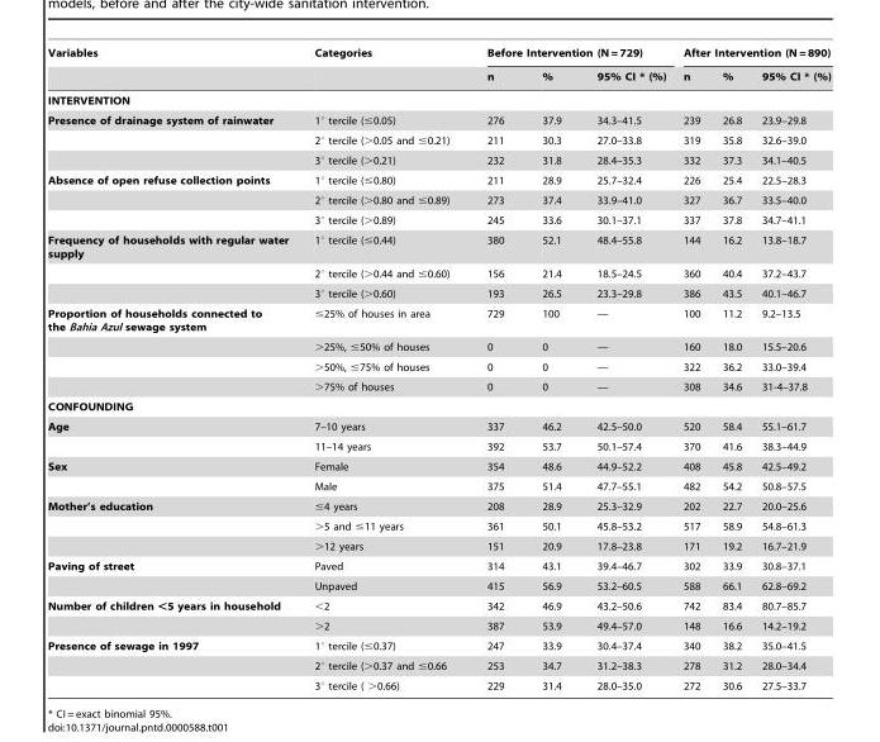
<table><thead><tr><td rowspan="2">Variables</td><td rowspan="2">Categories</td><td colspan="3">Before Intervention (N = 729)</td><td colspan="3">After Intervention (N = 890)</td></tr><tr><td>n</td><td>%</td><td>95% CI * (%)</td><td>n</td><td>%</td><td>95% CI * (%)</td></tr></thead><tbody><tr><td colspan="8">INTERVENTION</td></tr><tr><td rowspan="3">Presence of drainage system of rainwater</td><td>1° tercile (≤0.05)</td><td>276</td><td>37.9</td><td>34.3–41.5</td><td>239</td><td>26.8</td><td>23.9–29.8</td></tr><tr><td>2° tercile (&gt;0.05 and ≤0.21)</td><td>211</td><td>30.3</td><td>27.0–33.8</td><td>319</td><td>35.8</td><td>32.6–39.0</td></tr><tr><td>3° tercile (&gt;0.21)</td><td>232</td><td>31.8</td><td>28.4–35.3</td><td>332</td><td>37.3</td><td>34.1–40.5</td></tr><tr><td rowspan="3">Absence of open refuse collection points</td><td>1° tercile (≤0.80)</td><td>211</td><td>28.9</td><td>25.7–32.4</td><td>226</td><td>25.4</td><td>22.5–28.3</td></tr><tr><td>2° tercile (&gt;0.80 and ≤0.89)</td><td>273</td><td>37.4</td><td>33.9–41.0</td><td>327</td><td>36.7</td><td>33.5–40.0</td></tr><tr><td>3° tercile (&gt;0.89)</td><td>245</td><td>33.6</td><td>30.1–37.1</td><td>337</td><td>37.8</td><td>34.7–41.1</td></tr><tr><td rowspan="3">Frequency of households with regular water supply</td><td>1° tercile (≤0.44)</td><td>380</td><td>52.1</td><td>48.4–55.8</td><td>144</td><td>16.2</td><td>13.8–18.7</td></tr><tr><td>2° tercile (&gt;0.44 and ≤0.60)</td><td>156</td><td>21.4</td><td>18.5–24.5</td><td>360</td><td>40.4</td><td>37.2–43.7</td></tr><tr><td>3° tercile (&gt;0.60)</td><td>193</td><td>26.5</td><td>23.3–29.8</td><td>386</td><td>43.5</td><td>40.1–46.7</td></tr><tr><td rowspan="4">Proportion of households connected to the Bahia Azul sewage system</td><td>≤25% of houses in area</td><td>729</td><td>100</td><td>—</td><td>100</td><td>11.2</td><td>9.2–13.5</td></tr><tr><td>&gt;25%, ≤50% of houses</td><td>0</td><td>0</td><td>—</td><td>160</td><td>18.0</td><td>15.5–20.6</td></tr><tr><td>&gt;50%, ≤75% of houses</td><td>0</td><td>0</td><td>—</td><td>322</td><td>36.2</td><td>33.0–39.4</td></tr><tr><td>&gt;75% of houses</td><td>0</td><td>0</td><td>—</td><td>308</td><td>34.6</td><td>31-4–37.8</td></tr><tr><td colspan="8">CONFOUNDING</td></tr><tr><td rowspan="2">Age</td><td>7–10 years</td><td>337</td><td>46.2</td><td>42.5–50.0</td><td>520</td><td>58.4</td><td>55.1–61.7</td></tr><tr><td>11–14 years</td><td>392</td><td>53.7</td><td>50.1–57.4</td><td>370</td><td>41.6</td><td>38.3–44.9</td></tr><tr><td rowspan="2">Sex</td><td>Female</td><td>354</td><td>48.6</td><td>44.9–52.2</td><td>408</td><td>45.8</td><td>42.5–49.2</td></tr><tr><td>Male</td><td>375</td><td>51.4</td><td>47.7–55.1</td><td>482</td><td>54.2</td><td>50.8–57.5</td></tr><tr><td rowspan="3">Mother’s education</td><td>≤4 years</td><td>208</td><td>28.9</td><td>25.3–32.9</td><td>202</td><td>22.7</td><td>20.0–25.6</td></tr><tr><td>&gt;5 and ≤11 years</td><td>361</td><td>50.1</td><td>45.8–53.2</td><td>517</td><td>58.9</td><td>54.8–61.3</td></tr><tr><td>&gt;12 years</td><td>151</td><td>20.9</td><td>17.8–23.8</td><td>171</td><td>19.2</td><td>16.7–21.9</td></tr><tr><td rowspan="2">Paving of street</td><td>Paved</td><td>314</td><td>43.1</td><td>39.4–46.7</td><td>302</td><td>33.9</td><td>30.8–37.1</td></tr><tr><td>Unpaved</td><td>415</td><td>56.9</td><td>53.2–60.5</td><td>588</td><td>66.1</td><td>62.8–69.2</td></tr><tr><td rowspan="2">Number of children &lt;5 years in household</td><td>&lt;2</td><td>342</td><td>46.9</td><td>43.2–50.6</td><td>742</td><td>83.4</td><td>80.7–85.7</td></tr><tr><td>&gt;2</td><td>387</td><td>53.9</td><td>49.4–57.0</td><td>148</td><td>16.6</td><td>14.2–19.2</td></tr><tr><td rowspan="3">Presence of sewage in 1997</td><td>1° tercile (≤0.37)</td><td>247</td><td>33.9</td><td>30.4–37.4</td><td>340</td><td>38.2</td><td>35.0–41.5</td></tr><tr><td>2° tercile (&gt;0.37 and ≤0.66</td><td>253</td><td>34.7</td><td>31.2–38.3</td><td>278</td><td>31.2</td><td>28.0–34.4</td></tr><tr><td>3° tercile ( &gt;0.66)</td><td>229</td><td>31.4</td><td>28.0–35.0</td><td>272</td><td>30.6</td><td>27.5–33.7</td></tr></tbody></table>